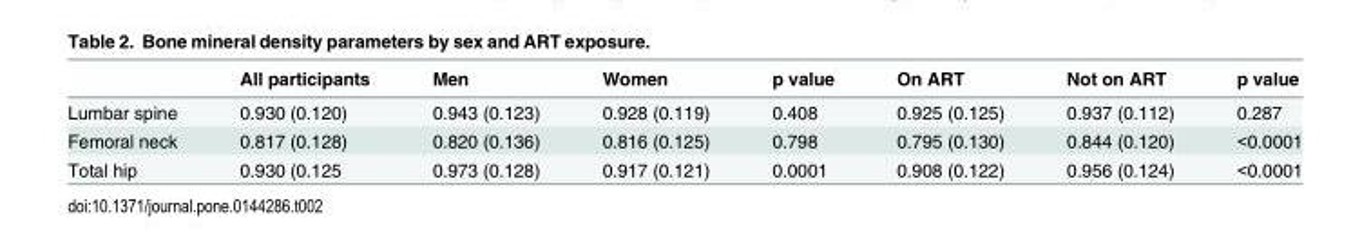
<table><thead><tr><td></td><td>All participants</td><td>Men</td><td>Women</td><td>p value</td><td>On ART</td><td>Not on ART</td><td>p value</td></tr></thead><tbody><tr><td>Lumbar spine</td><td>0.930 (0.120)</td><td>0.943 (0.123)</td><td>0.928 (0.119)</td><td>0.408</td><td>0.925 (0.125)</td><td>0.937 (0.112)</td><td>0.287</td></tr><tr><td>Femoral neck</td><td>0.817 (0.128)</td><td>0.820 (0.136)</td><td>0.816 (0.125)</td><td>0.798</td><td>0.795 (0.130)</td><td>0.844 (0.120)</td><td>&lt;0.0001</td></tr><tr><td>Total hip</td><td>0.930 (0.125</td><td>0.973 (0.128)</td><td>0.917 (0.121)</td><td>0.0001</td><td>0.908 (0.122)</td><td>0.956 (0.124)</td><td>&lt;0.0001</td></tr></tbody></table>